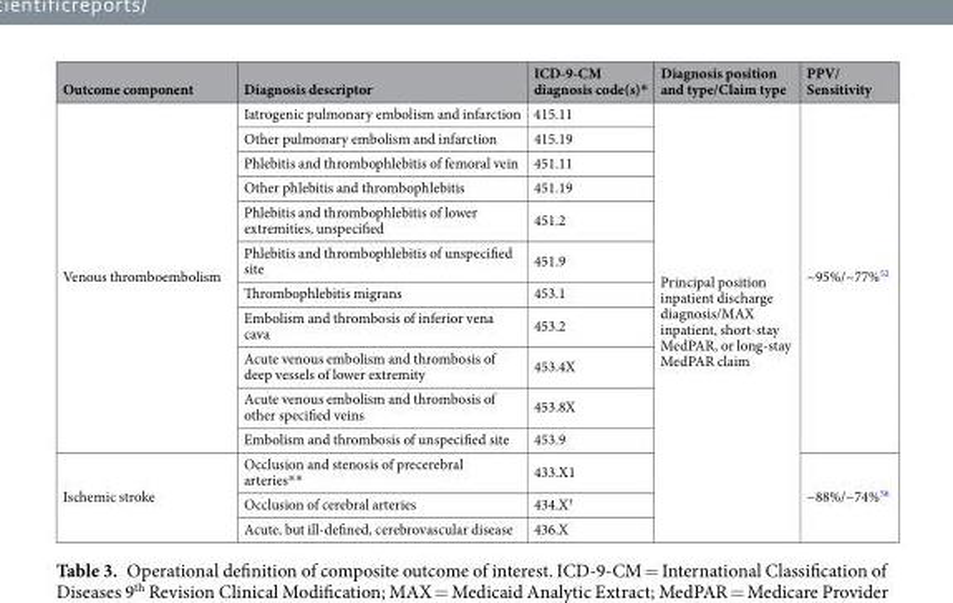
<table><thead><tr><td>Outcome component</td><td>Diagnosis descriptor</td><td>ICD-9-CM diagnosis code(s)*</td><td>Diagnosis position and type/Claim type</td><td>PPV/ Sensitivity</td></tr></thead><tbody><tr><td rowspan="11">Venous thromboembolism</td><td>Iatrogenic pulmonary embolism and infarction</td><td>415.11</td><td rowspan="14">Principal position inpatient discharge diagnosis/MAX inpatient, short-stay MedPAR, or long-stay MedPAR claim</td><td rowspan="11">~95%/~77%<sup>52</sup></td></tr><tr><td>Other pulmonary embolism and infarction</td><td>415.19</td></tr><tr><td>Phlebitis and thrombophlebitis of femoral vein</td><td>451.11</td></tr><tr><td>Other phlebitis and thrombophlebitis</td><td>451.19</td></tr><tr><td>Phlebitis and thrombophlebitis of lower extremities, unspecified</td><td>451.2</td></tr><tr><td>Phlebitis and thrombophlebitis of unspecified site</td><td>451.9</td></tr><tr><td>Thrombophlebitis migrans</td><td>453.1</td></tr><tr><td>Embolism and thrombosis of inferior vena cava</td><td>453.2</td></tr><tr><td>Acute venous embolism and thrombosis of deep vessels of lower extremity</td><td>453.4X</td></tr><tr><td>Acute venous embolism and thrombosis of other specified veins</td><td>453.8X</td></tr><tr><td>Embolism and thrombosis of unspecified site</td><td>453.9</td></tr><tr><td rowspan="3">Ischemic stroke</td><td>Occlusion and stenosis of precerebral arteries**</td><td>433.X1</td><td rowspan="3">~88%/~74%<sup>56</sup></td></tr><tr><td>Occlusion of cerebral arteries</td><td>434.X<sup>†</sup></td></tr><tr><td>Acute, but ill-defined, cerebrovascular disease</td><td>436.X</td></tr></tbody></table>